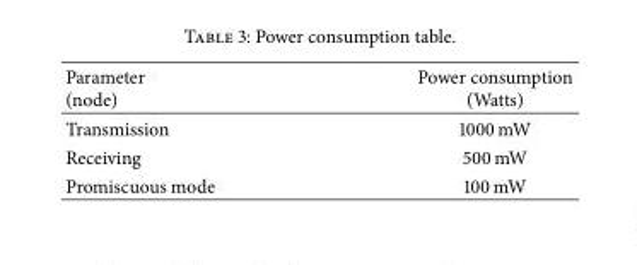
<table><thead><tr><td>Parameter (node)</td><td>Power consumption (Watts)</td></tr></thead><tbody><tr><td>Transmission</td><td>1000 mW</td></tr><tr><td>Receiving</td><td>500 mW</td></tr><tr><td>Promiscuous mode</td><td>100 mW</td></tr></tbody></table>